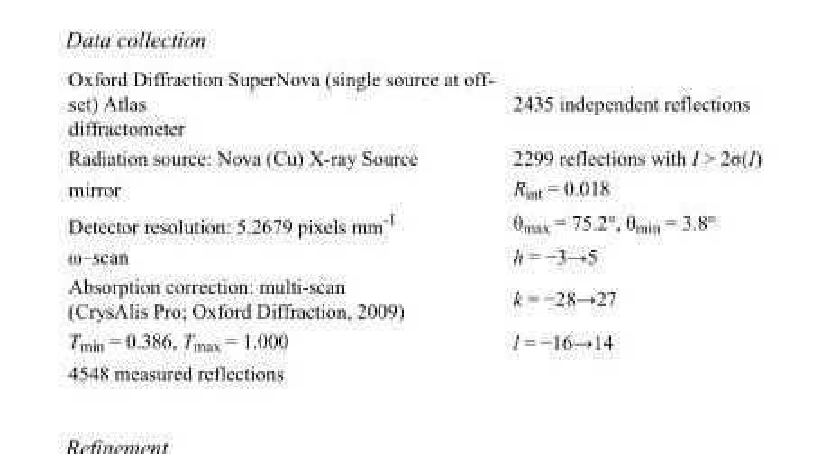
<table><tbody><tr><td>Oxford Diffraction SuperNova (single source at off- set) Atlas diffractometer</td><td>2435 independent reflections</td></tr><tr><td>Radiation source: Nova (Cu) X-ray Source</td><td>2299 reflections with I &gt; 2σ(I)</td></tr><tr><td>mirror</td><td>R<sub>int</sub> = 0.018</td></tr><tr><td>Detector resolution: 5.2679 pixels mm<sup>-1</sup></td><td>θ<sub>max</sub> = 75.2°, θ<sub>min</sub> = 3.8°</td></tr><tr><td>ω–scan</td><td>h = −3→5</td></tr><tr><td>Absorption correction: multi-scan (CrysAlis Pro; Oxford Diffraction, 2009)</td><td>k = −28→27</td></tr><tr><td>T<sub>min</sub> = 0.386, T<sub>max</sub> = 1.000</td><td>l = −16→14</td></tr><tr><td>4548 measured reflections</td><td></td></tr></tbody></table>